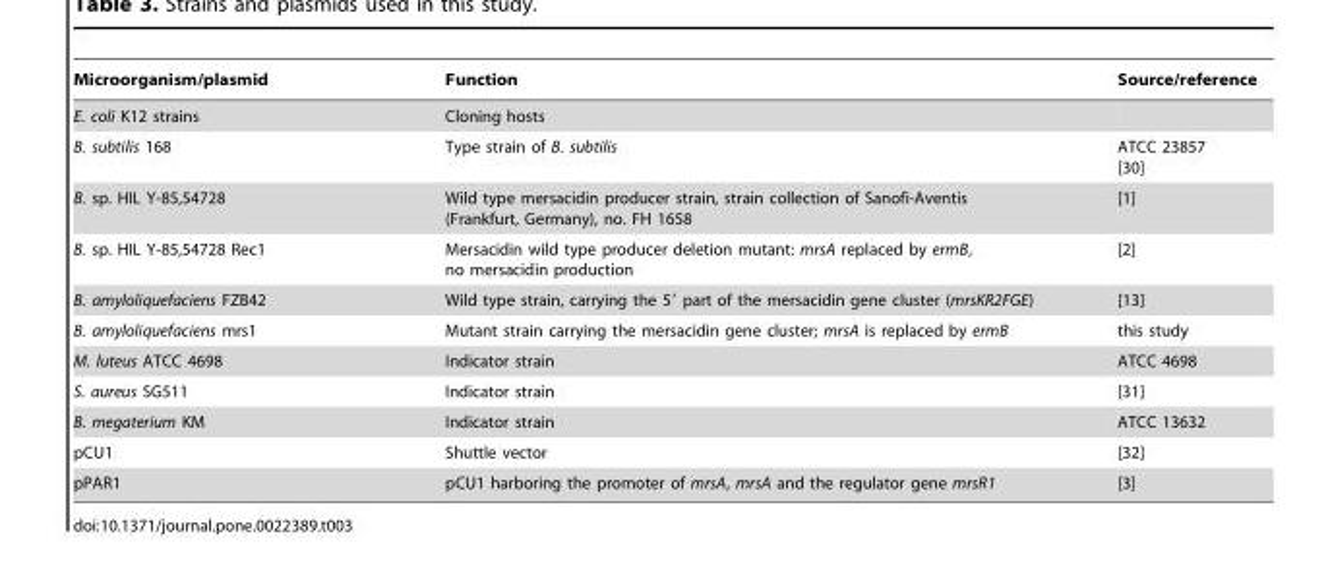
<table><thead><tr><td>Microorganism/plasmid</td><td>Function</td><td>Source/reference</td></tr></thead><tbody><tr><td>E. coli K12 strains</td><td>Cloning hosts</td><td></td></tr><tr><td>B. subtilis 168</td><td>Type strain of B. subtilis</td><td>ATCC 23857 [30]</td></tr><tr><td>B. sp. HIL Y-85,54728</td><td>Wild type mersacidin producer strain, strain collection of Sanofi-Aventis (Frankfurt, Germany), no. FH 1658</td><td>[1]</td></tr><tr><td>B. sp. HIL Y-85,54728 Rec1</td><td>Mersacidin wild type producer deletion mutant: mrsA replaced by ermB, no mersacidin production</td><td>[2]</td></tr><tr><td>B. amyloliquefaciens FZB42</td><td>Wild type strain, carrying the 5′ part of the mersacidin gene cluster (mrsKR2FGE)</td><td>[13]</td></tr><tr><td>B. amyloliquefaciens mrs1</td><td>Mutant strain carrying the mersacidin gene cluster; mrsA is replaced by ermB</td><td>this study</td></tr><tr><td>M. luteus ATCC 4698</td><td>Indicator strain</td><td>ATCC 4698</td></tr><tr><td>S. aureus SG511</td><td>Indicator strain</td><td>[31]</td></tr><tr><td>B. megaterium KM</td><td>Indicator strain</td><td>ATCC 13632</td></tr><tr><td>pCU1</td><td>Shuttle vector</td><td>[32]</td></tr><tr><td>pPAR1</td><td>pCU1 harboring the promoter of mrsA, mrsA and the regulator gene mrsR1</td><td>[3]</td></tr></tbody></table>